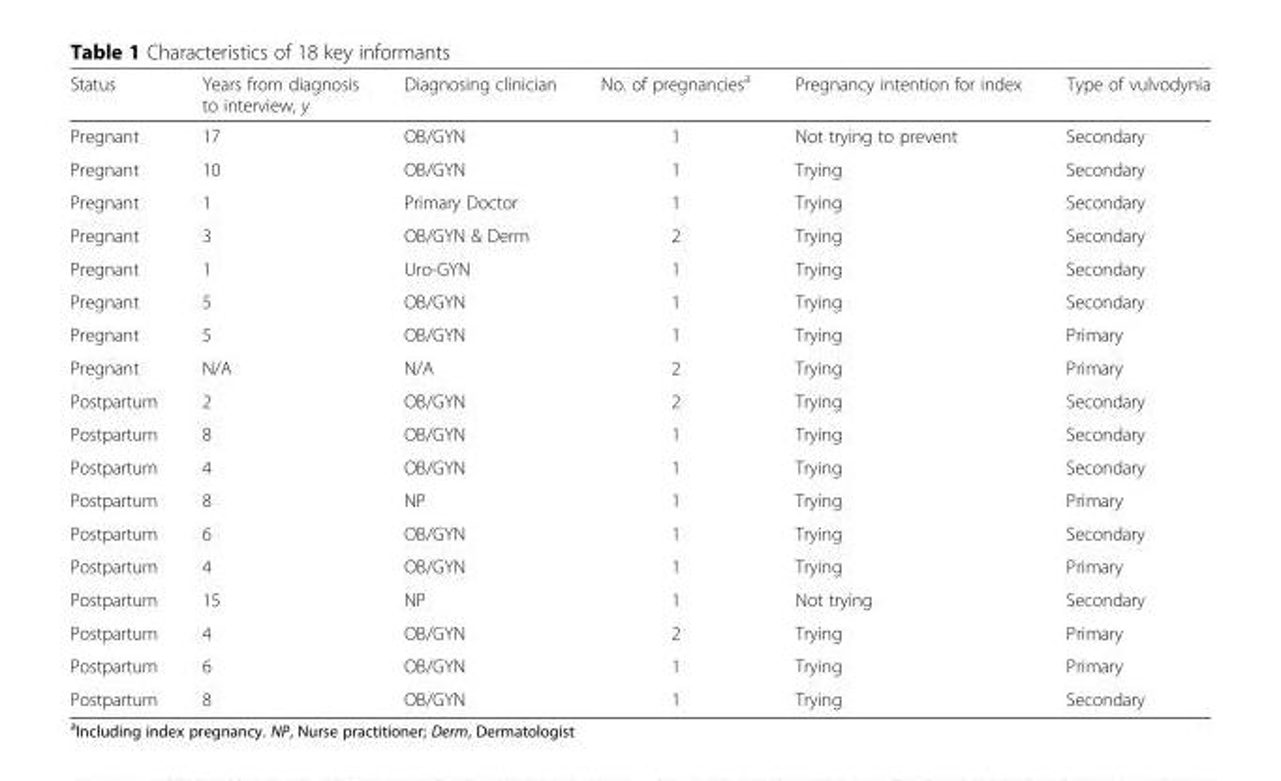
<table><thead><tr><td>Status</td><td>Years from diagnosis to interview, y</td><td>Diagnosing clinician</td><td>No. of pregnancies<sup>a</sup></td><td>Pregnancy intention for index</td><td>Type of vulvodynia</td></tr></thead><tbody><tr><td>Pregnant</td><td>17</td><td>OB/GYN</td><td>1</td><td>Not trying to prevent</td><td>Secondary</td></tr><tr><td>Pregnant</td><td>10</td><td>OB/GYN</td><td>1</td><td>Trying</td><td>Secondary</td></tr><tr><td>Pregnant</td><td>1</td><td>Primary Doctor</td><td>1</td><td>Trying</td><td>Secondary</td></tr><tr><td>Pregnant</td><td>3</td><td>OB/GYN &amp; Derm</td><td>2</td><td>Trying</td><td>Secondary</td></tr><tr><td>Pregnant</td><td>1</td><td>Uro-GYN</td><td>1</td><td>Trying</td><td>Secondary</td></tr><tr><td>Pregnant</td><td>5</td><td>OB/GYN</td><td>1</td><td>Trying</td><td>Secondary</td></tr><tr><td>Pregnant</td><td>5</td><td>OB/GYN</td><td>1</td><td>Trying</td><td>Primary</td></tr><tr><td>Pregnant</td><td>N/A</td><td>N/A</td><td>2</td><td>Trying</td><td>Primary</td></tr><tr><td>Postpartum</td><td>2</td><td>OB/GYN</td><td>2</td><td>Trying</td><td>Secondary</td></tr><tr><td>Postpartum</td><td>8</td><td>OB/GYN</td><td>1</td><td>Trying</td><td>Secondary</td></tr><tr><td>Postpartum</td><td>4</td><td>OB/GYN</td><td>1</td><td>Trying</td><td>Secondary</td></tr><tr><td>Postpartum</td><td>8</td><td>NP</td><td>1</td><td>Trying</td><td>Primary</td></tr><tr><td>Postpartum</td><td>6</td><td>OB/GYN</td><td>1</td><td>Trying</td><td>Secondary</td></tr><tr><td>Postpartum</td><td>4</td><td>OB/GYN</td><td>1</td><td>Trying</td><td>Primary</td></tr><tr><td>Postpartum</td><td>15</td><td>NP</td><td>1</td><td>Not trying</td><td>Secondary</td></tr><tr><td>Postpartum</td><td>4</td><td>OB/GYN</td><td>2</td><td>Trying</td><td>Primary</td></tr><tr><td>Postpartum</td><td>6</td><td>OB/GYN</td><td>1</td><td>Trying</td><td>Primary</td></tr><tr><td>Postpartum</td><td>8</td><td>OB/GYN</td><td>1</td><td>Trying</td><td>Secondary</td></tr></tbody></table>